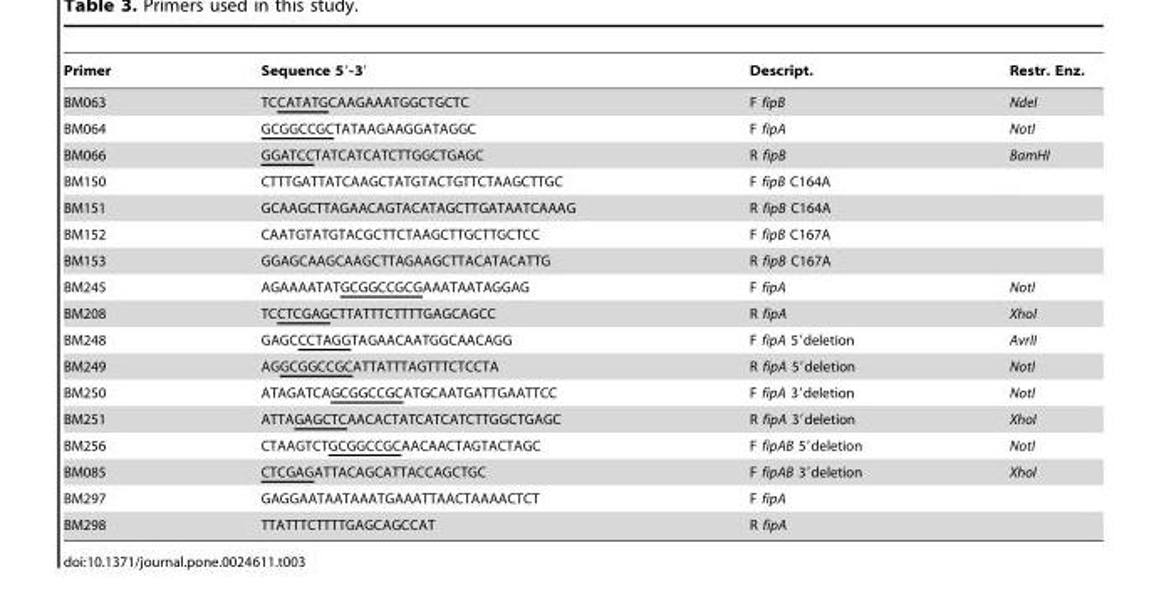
<table><thead><tr><td>Primer</td><td>Sequence 5′-3′</td><td>Descript.</td><td>Restr. Enz.</td></tr></thead><tbody><tr><td>BM063</td><td>TCCATATGCAAGAAATGGCTGCTC</td><td>F fipB</td><td>NdeI</td></tr><tr><td>BM064</td><td>GCGGCCGCTATAAGAAGGATAGGC</td><td>F fipA</td><td>NotI</td></tr><tr><td>BM066</td><td>GGATCCTATCATCATCTTGGCTGAGC</td><td>R fipB</td><td>BamHI</td></tr><tr><td>BM150</td><td>CTTTGATTATCAAGCTATGTACTGTTCTAAGCTTGC</td><td>F fipB C164A</td><td></td></tr><tr><td>BM151</td><td>GCAAGCTTAGAACAGTACATAGCTTGATAATCAAAG</td><td>R fipB C164A</td><td></td></tr><tr><td>BM152</td><td>CAATGTATGTACGCTTCTAAGCTTGCTTGCTCC</td><td>F fipB C167A</td><td></td></tr><tr><td>BM153</td><td>GGAGCAAGCAAGCTTAGAAGCTTACATACATTG</td><td>R fipB C167A</td><td></td></tr><tr><td>BM245</td><td>AGAAAATATGCGGCCGCGAAATAATAGGAG</td><td>F fipA</td><td>NotI</td></tr><tr><td>BM208</td><td>TCCTCGAGCTTATTTCTTTTGAGCAGCC</td><td>R fipA</td><td>XhoI</td></tr><tr><td>BM248</td><td>GAGCCCTAGGTAGAACAATGGCAACAGG</td><td>F fipA 5′deletion</td><td>AvrII</td></tr><tr><td>BM249</td><td>AGGCGGCCGCATTATTTAGTTTCTCCTA</td><td>R fipA 5′deletion</td><td>NotI</td></tr><tr><td>BM250</td><td>ATAGATCAGCGGCCGCATGCAATGATTGAATTCC</td><td>F fipA 3′deletion</td><td>NotI</td></tr><tr><td>BM251</td><td>ATTAGAGCTCAACACTATCATCATCTTGGCTGAGC</td><td>R fipA 3′deletion</td><td>XhoI</td></tr><tr><td>BM256</td><td>CTAAGTCTGCGGCCGCAACAACTAGTACTAGC</td><td>F fipAB 5′deletion</td><td>NotI</td></tr><tr><td>BM085</td><td>CTCGAGATTACAGCATTACCAGCTGC</td><td>F fipAB 3′deletion</td><td>XhoI</td></tr><tr><td>BM297</td><td>GAGGAATAATAAATGAAATTAACTAAAACTCT</td><td>F fipA</td><td></td></tr><tr><td>BM298</td><td>TTATTTCTTTTGAGCAGCCAT</td><td>R fipA</td><td></td></tr></tbody></table>